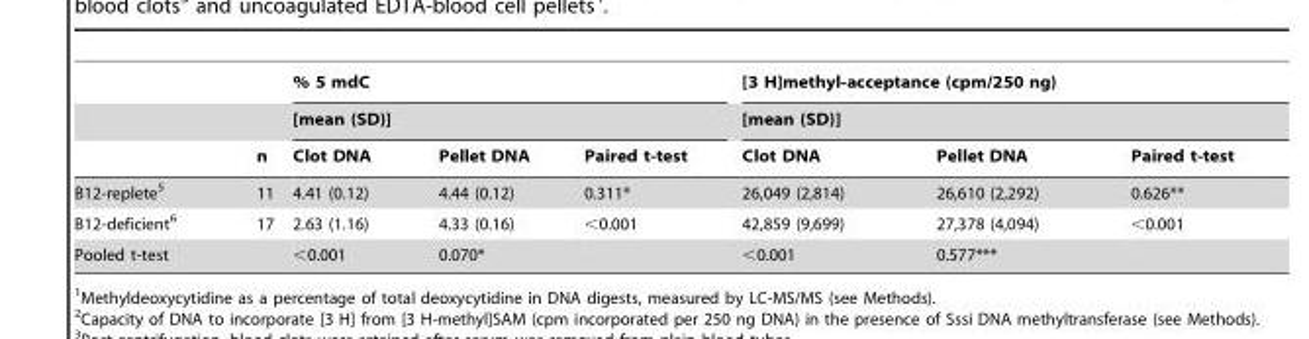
<table><thead><tr><td rowspan="3"></td><td rowspan="3">n</td><td rowspan="2" colspan="3">% 5 mdC [mean (SD)]</td><td rowspan="2" colspan="3">[3 H]methyl-acceptance (cpm/250 ng) [mean (SD)]</td></tr><tr></tr><tr><td>Clot DNA</td><td>Pellet DNA</td><td>Paired t-test</td><td>Clot DNA</td><td>Pellet DNA</td><td>Paired t-test</td></tr></thead><tbody><tr><td>B12-replete<sup>5</sup></td><td>11</td><td>4.41 (0.12)</td><td>4.44 (0.12)</td><td>0.311*</td><td>26,049 (2,814)</td><td>26,610 (2,292)</td><td>0.626**</td></tr><tr><td>B12-deficient<sup>6</sup></td><td>17</td><td>2.63 (1.16)</td><td>4.33 (0.16)</td><td>&lt;0.001</td><td>42,859 (9,699)</td><td>27,378 (4,094)</td><td>&lt;0.001</td></tr><tr><td colspan="2">Pooled t-test</td><td>&lt;0.001</td><td>0.070*</td><td></td><td>&lt;0.001</td><td>0.577***</td><td></td></tr></tbody></table>